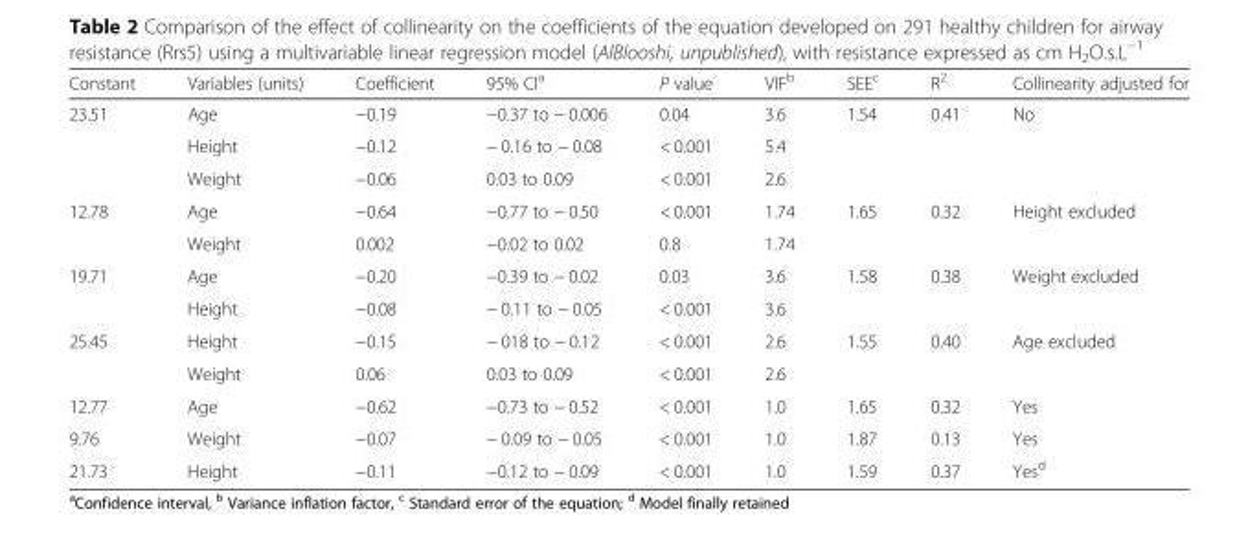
<table><thead><tr><td>Constant</td><td>Variables (units)</td><td>Coefficient</td><td>95% CI<sup>a</sup></td><td>P value</td><td>VIF<sup>b</sup></td><td>SEE<sup>c</sup></td><td>R<sup>2</sup></td><td>Collinearity adjusted for</td></tr></thead><tbody><tr><td rowspan="3">23.51</td><td>Age</td><td>−0.19</td><td>−0.37 to − 0.006</td><td>0.04</td><td>3.6</td><td rowspan="3">1.54</td><td rowspan="3">0.41</td><td rowspan="3">No</td></tr><tr><td>Height</td><td>−0.12</td><td>− 0.16 to − 0.08</td><td>&lt; 0.001</td><td>5.4</td></tr><tr><td>Weight</td><td>−0.06</td><td>0.03 to 0.09</td><td>&lt; 0.001</td><td>2.6</td></tr><tr><td rowspan="2">12.78</td><td>Age</td><td>−0.64</td><td>−0.77 to − 0.50</td><td>&lt; 0.001</td><td>1.74</td><td rowspan="2">1.65</td><td rowspan="2">0.32</td><td rowspan="2">Height excluded</td></tr><tr><td>Weight</td><td>0.002</td><td>−0.02 to 0.02</td><td>0.8</td><td>1.74</td></tr><tr><td rowspan="2">19.71</td><td>Age</td><td>−0.20</td><td>−0.39 to − 0.02</td><td>0.03</td><td>3.6</td><td rowspan="2">1.58</td><td rowspan="2">0.38</td><td rowspan="2">Weight excluded</td></tr><tr><td>Height</td><td>−0.08</td><td>− 0.11 to − 0.05</td><td>&lt; 0.001</td><td>3.6</td></tr><tr><td rowspan="2">25.45</td><td>Height</td><td>−0.15</td><td>− 018 to − 0.12</td><td>&lt; 0.001</td><td>2.6</td><td rowspan="2">1.55</td><td rowspan="2">0.40</td><td rowspan="2">Age excluded</td></tr><tr><td>Weight</td><td>0.06</td><td>0.03 to 0.09</td><td>&lt; 0.001</td><td>2.6</td></tr><tr><td>12.77</td><td>Age</td><td>−0.62</td><td>−0.73 to − 0.52</td><td>&lt; 0.001</td><td>1.0</td><td>1.65</td><td>0.32</td><td>Yes</td></tr><tr><td>9.76</td><td>Weight</td><td>−0.07</td><td>− 0.09 to − 0.05</td><td>&lt; 0.001</td><td>1.0</td><td>1.87</td><td>0.13</td><td>Yes</td></tr><tr><td>21.73</td><td>Height</td><td>−0.11</td><td>−0.12 to − 0.09</td><td>&lt; 0.001</td><td>1.0</td><td>1.59</td><td>0.37</td><td>Yes<sup>d</sup></td></tr></tbody></table>